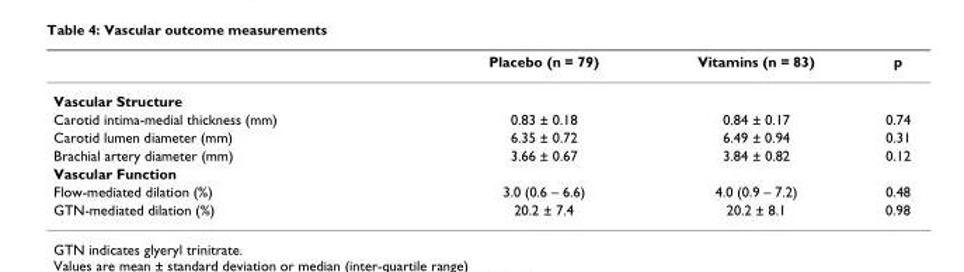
<table><thead><tr><td></td><td>Placebo (n = 79)</td><td>Vitamins (n = 83)</td><td>p</td></tr></thead><tbody><tr><td colspan="4">Vascular Structure</td></tr><tr><td>Carotid intima-medial thickness (mm)</td><td>0.83 ± 0.18</td><td>0.84 ± 0.17</td><td>0.74</td></tr><tr><td>Carotid lumen diameter (mm)</td><td>6.35 ± 0.72</td><td>6.49 ± 0.94</td><td>0.31</td></tr><tr><td>Brachial artery diameter (mm)</td><td>3.66 ± 0.67</td><td>3.84 ± 0.82</td><td>0.12</td></tr><tr><td colspan="4">Vascular Function</td></tr><tr><td>Flow-mediated dilation (%)</td><td>3.0 (0.6 – 6.6)</td><td>4.0 (0.9 – 7.2)</td><td>0.48</td></tr><tr><td>GTN-mediated dilation (%)</td><td>20.2 ± 7.4</td><td>20.2 ± 8.1</td><td>0.98</td></tr></tbody></table>